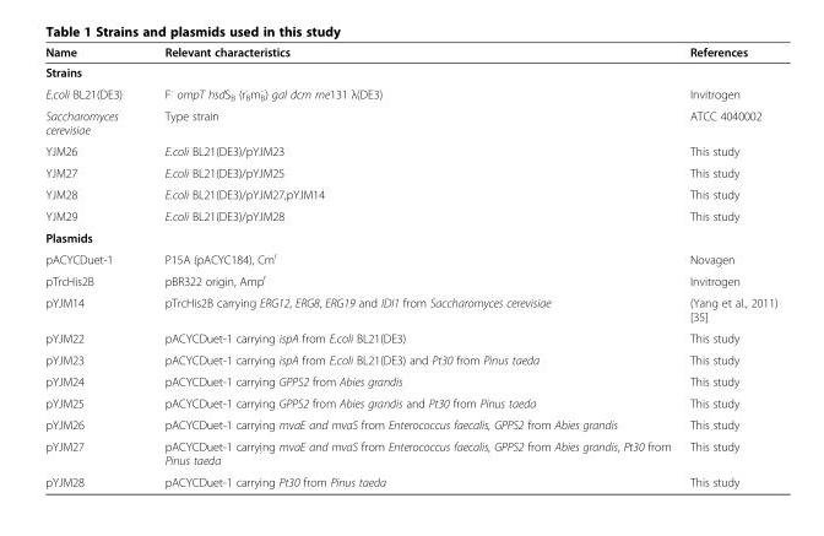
<table><thead><tr><td>Name</td><td>Relevant characteristics</td><td>References</td></tr></thead><tbody><tr><td colspan="3">Strains</td></tr><tr><td>E.coli BL21(DE3)</td><td>F- ompT hsdSB (rB - mB - ) gal dcm rne131 λ(DE3)</td><td>Invitrogen</td></tr><tr><td>Saccharomyces cerevisiae</td><td>Type strain</td><td>ATCC 4040002</td></tr><tr><td>YJM26</td><td>E.coli BL21(DE3)/pYJM23</td><td>This study</td></tr><tr><td>YJM27</td><td>E.coli BL21(DE3)/pYJM25</td><td>This study</td></tr><tr><td>YJM28</td><td>E.coli BL21(DE3)/pYJM27,pYJM14</td><td>This study</td></tr><tr><td>YJM29</td><td>E.coli BL21(DE3)/pYJM28</td><td>This study</td></tr><tr><td colspan="3">Plasmids</td></tr><tr><td>pACYCDuet-1</td><td>P15A (pACYC184), Cm<sup>r</sup></td><td>Novagen</td></tr><tr><td>pTrcHis2B</td><td>pBR322 origin, Amp<sup>r</sup></td><td>Invitrogen</td></tr><tr><td>pYJM14</td><td>pTrcHis2B carrying ERG12, ERG8, ERG19 and IDI1 from Saccharomyces cerevisiae</td><td>(Yang et al., 2011) [35]</td></tr><tr><td>pYJM22</td><td>pACYCDuet-1 carrying ispA from E.coli BL21(DE3)</td><td>This study</td></tr><tr><td>pYJM23</td><td>pACYCDuet-1 carrying ispA from E.coli BL21(DE3) and Pt30 from Pinus taeda</td><td>This study</td></tr><tr><td>pYJM24</td><td>pACYCDuet-1 carrying GPPS2 from Abies grandis</td><td>This study</td></tr><tr><td>pYJM25</td><td>pACYCDuet-1 carrying GPPS2 from Abies grandis and Pt30 from Pinus taeda</td><td>This study</td></tr><tr><td>pYJM26</td><td>pACYCDuet-1 carrying mvaE and mvaS from Enterococcus faecalis, GPPS2 from Abies grandis</td><td>This study</td></tr><tr><td>pYJM27</td><td>pACYCDuet-1 carrying mvaE and mvaS from Enterococcus faecalis, GPPS2 from Abies grandis, Pt30 from Pinus taeda</td><td>This study</td></tr><tr><td>pYJM28</td><td>pACYCDuet-1 carrying Pt30 from Pinus taeda</td><td>This study</td></tr></tbody></table>